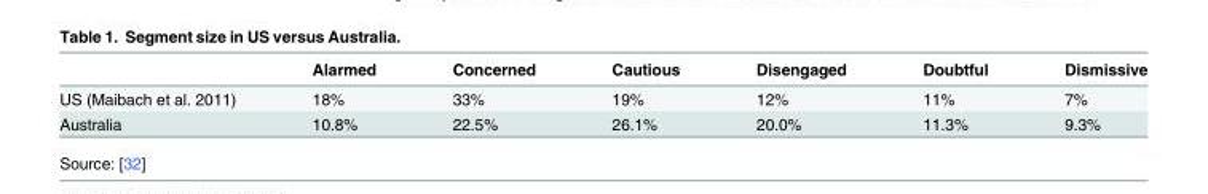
<table><thead><tr><td></td><td>Alarmed</td><td>Concerned</td><td>Cautious</td><td>Disengaged</td><td>Doubtful</td><td>Dismissive</td></tr></thead><tbody><tr><td>US (Maibach et al. 2011)</td><td>18%</td><td>33%</td><td>19%</td><td>12%</td><td>11%</td><td>7%</td></tr><tr><td>Australia</td><td>10.8%</td><td>22.5%</td><td>26.1%</td><td>20.0%</td><td>11.3%</td><td>9.3%</td></tr></tbody></table>